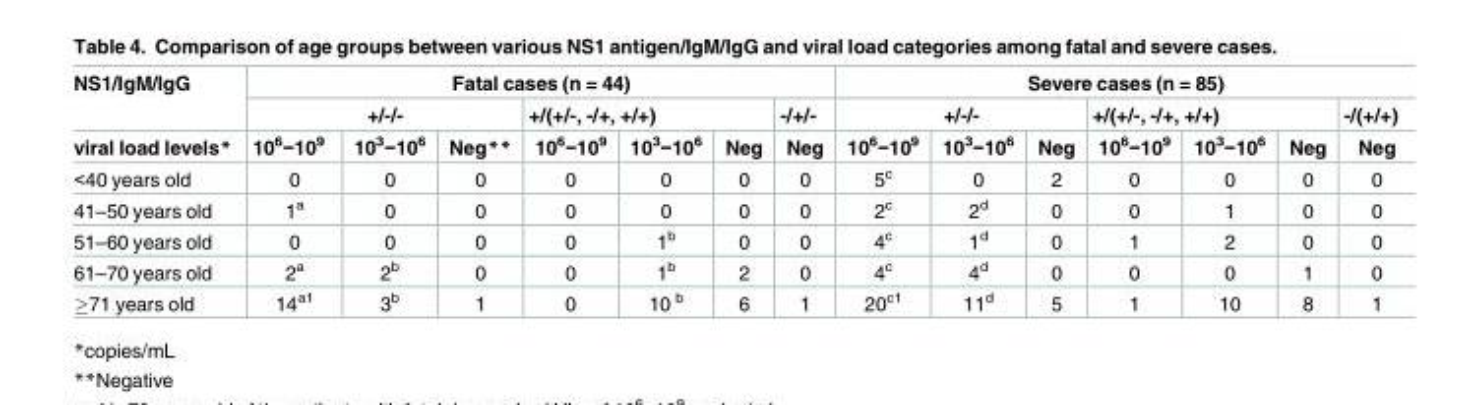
<table><thead><tr><td rowspan="3">NS1/IgM/IgG viral load levels*</td><td colspan="7">Fatal cases (n = 44)</td><td colspan="7">Severe cases (n = 85)</td></tr><tr><td colspan="3">+/-/-</td><td colspan="3">+/(+/-, -/+, +/+)</td><td rowspan="2">-/+/- Neg</td><td colspan="3">+/-/-</td><td colspan="3">+/(+/-, -/+, +/+)</td><td rowspan="2">-/(+/+) Neg</td></tr><tr><td>10<sup>6</sup>−10<sup>9</sup></td><td>10<sup>3</sup>−10<sup>6</sup></td><td>Neg**</td><td>10<sup>6</sup>−10<sup>9</sup></td><td>10<sup>3</sup>−10<sup>6</sup></td><td>Neg</td><td>10<sup>6</sup>−10<sup>9</sup></td><td>10<sup>3</sup>−10<sup>6</sup></td><td>Neg</td><td>10<sup>6</sup>−10<sup>9</sup></td><td>10<sup>3</sup>−10<sup>6</sup></td><td>Neg</td></tr></thead><tbody><tr><td>&lt;40 years old</td><td>0</td><td>0</td><td>0</td><td>0</td><td>0</td><td>0</td><td>0</td><td>5<sup>c</sup></td><td>0</td><td>2</td><td>0</td><td>0</td><td>0</td><td>0</td></tr><tr><td>41–50 years old</td><td>1<sup>a</sup></td><td>0</td><td>0</td><td>0</td><td>0</td><td>0</td><td>0</td><td>2<sup>c</sup></td><td>2<sup>d</sup></td><td>0</td><td>0</td><td>1</td><td>0</td><td>0</td></tr><tr><td>51–60 years old</td><td>0</td><td>0</td><td>0</td><td>0</td><td>1<sup>b</sup></td><td>0</td><td>0</td><td>4<sup>c</sup></td><td>1<sup>d</sup></td><td>0</td><td>1</td><td>2</td><td>0</td><td>0</td></tr><tr><td>61–70 years old</td><td>2<sup>a</sup></td><td>2<sup>b</sup></td><td>0</td><td>0</td><td>1<sup>b</sup></td><td>2</td><td>0</td><td>4<sup>c</sup></td><td>4<sup>d</sup></td><td>0</td><td>0</td><td>0</td><td>1</td><td>0</td></tr><tr><td>≥71 years old</td><td>14<sup>a1</sup></td><td>3<sup>b</sup></td><td>1</td><td>0</td><td>10 <sup>b</sup></td><td>6</td><td>1</td><td>20<sup>c1</sup></td><td>11<sup>d</sup></td><td>5</td><td>1</td><td>10</td><td>8</td><td>1</td></tr></tbody></table>